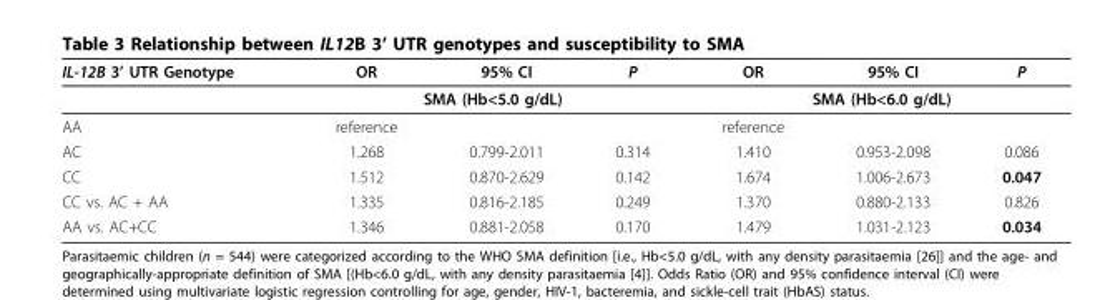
<table><thead><tr><td>IL-12B 3’ UTR Genotype</td><td>OR</td><td>95% CI</td><td>P</td><td>OR</td><td>95% CI</td><td>P</td></tr></thead><tbody><tr><td></td><td colspan="3">SMA (Hb&lt;5.0 g/dL)</td><td colspan="3">SMA (Hb&lt;6.0 g/dL)</td></tr><tr><td>AA</td><td>reference</td><td></td><td></td><td>reference</td><td></td><td></td></tr><tr><td>AC</td><td>1.268</td><td>0.799-2.011</td><td>0.314</td><td>1.410</td><td>0.953-2.098</td><td>0.086</td></tr><tr><td>CC</td><td>1.512</td><td>0.870-2.629</td><td>0.142</td><td>1.674</td><td>1.006-2.673</td><td>0.047</td></tr><tr><td>CC vs. AC + AA</td><td>1.335</td><td>0.816-2.185</td><td>0.249</td><td>1.370</td><td>0.880-2.133</td><td>0.826</td></tr><tr><td>AA vs. AC+CC</td><td>1.346</td><td>0.881-2.058</td><td>0.170</td><td>1.479</td><td>1.031-2.123</td><td>0.034</td></tr></tbody></table>